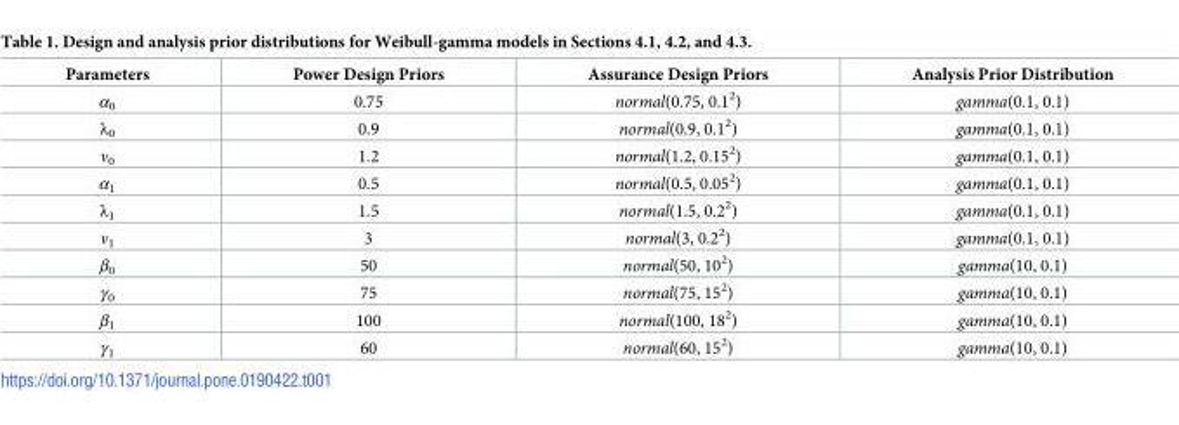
<table><thead><tr><td>Parameters</td><td>Power Design Priors</td><td>Assurance Design Priors</td><td>Analysis Prior Distribution</td></tr></thead><tbody><tr><td>α<sub>0</sub></td><td>0.75</td><td>normal(0.75, 0.1<sup>2</sup>)</td><td>gamma(0.1, 0.1)</td></tr><tr><td>λ<sub>0</sub></td><td>0.9</td><td>normal(0.9, 0.1<sup>2</sup>)</td><td>gamma(0.1, 0.1)</td></tr><tr><td>ν<sub>0</sub></td><td>1.2</td><td>normal(1.2, 0.15<sup>2</sup>)</td><td>gamma(0.1, 0.1)</td></tr><tr><td>α<sub>1</sub></td><td>0.5</td><td>normal(0.5, 0.05<sup>2</sup>)</td><td>gamma(0.1, 0.1)</td></tr><tr><td>λ<sub>1</sub></td><td>1.5</td><td>normal(1.5, 0.2<sup>2</sup>)</td><td>gamma(0.1, 0.1)</td></tr><tr><td>ν<sub>1</sub></td><td>3</td><td>normal(3, 0.2<sup>2</sup>)</td><td>gamma(0.1, 0.1)</td></tr><tr><td>β<sub>0</sub></td><td>50</td><td>normal(50, 10<sup>2</sup>)</td><td>gamma(10, 0.1)</td></tr><tr><td>γ<sub>0</sub></td><td>75</td><td>normal(75, 15<sup>2</sup>)</td><td>gamma(10, 0.1)</td></tr><tr><td>β<sub>1</sub></td><td>100</td><td>normal(100, 18<sup>2</sup>)</td><td>gamma(10, 0.1)</td></tr><tr><td>γ<sub>1</sub></td><td>60</td><td>normal(60, 15<sup>2</sup>)</td><td>gamma(10, 0.1)</td></tr></tbody></table>